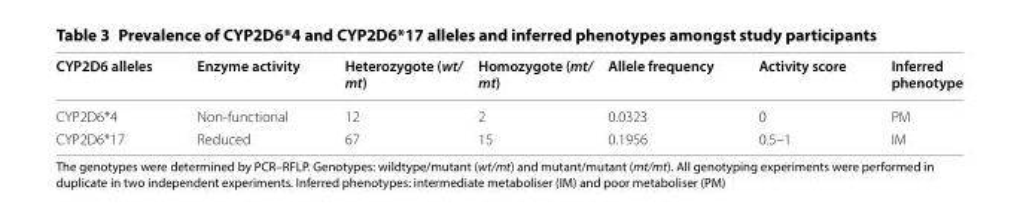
<table><thead><tr><td>CYP2D6 alleles</td><td>Enzyme activity</td><td>Heterozygote (wt/ mt)</td><td>Homozygote (mt/ mt)</td><td>Allele frequency</td><td>Activity score</td><td>Inferred phenotype</td></tr></thead><tbody><tr><td>CYP2D6*4</td><td>Non‑functional</td><td>12</td><td>2</td><td>0.0323</td><td>0</td><td>PM</td></tr><tr><td>CYP2D6*17</td><td>Reduced</td><td>67</td><td>15</td><td>0.1956</td><td>0.5–1</td><td>IM</td></tr></tbody></table>